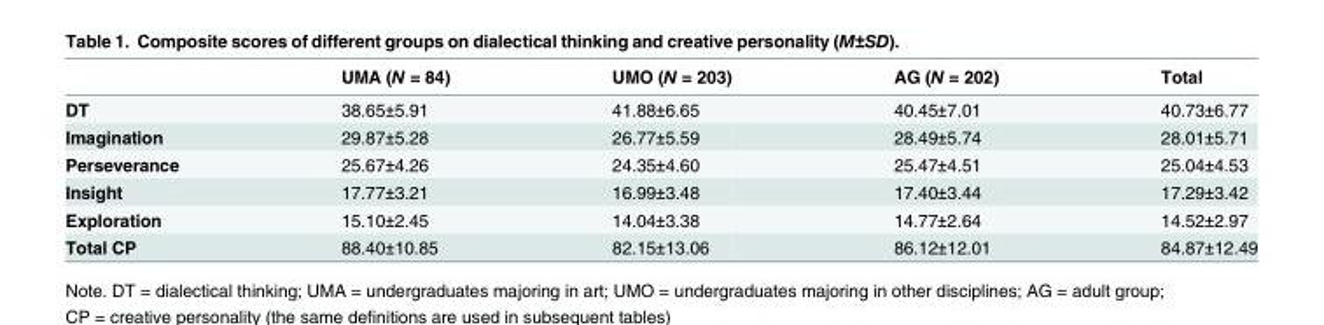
<table><thead><tr><td></td><td>UMA (N = 84)</td><td>UMO (N = 203)</td><td>AG (N = 202)</td><td>Total</td></tr></thead><tbody><tr><td>DT</td><td>38.65±5.91</td><td>41.88±6.65</td><td>40.45±7.01</td><td>40.73±6.77</td></tr><tr><td>Imagination</td><td>29.87±5.28</td><td>26.77±5.59</td><td>28.49±5.74</td><td>28.01±5.71</td></tr><tr><td>Perseverance</td><td>25.67±4.26</td><td>24.35±4.60</td><td>25.47±4.51</td><td>25.04±4.53</td></tr><tr><td>Insight</td><td>17.77±3.21</td><td>16.99±3.48</td><td>17.40±3.44</td><td>17.29±3.42</td></tr><tr><td>Exploration</td><td>15.10±2.45</td><td>14.04±3.38</td><td>14.77±2.64</td><td>14.52±2.97</td></tr><tr><td>Total CP</td><td>88.40±10.85</td><td>82.15±13.06</td><td>86.12±12.01</td><td>84.87±12.49</td></tr></tbody></table>